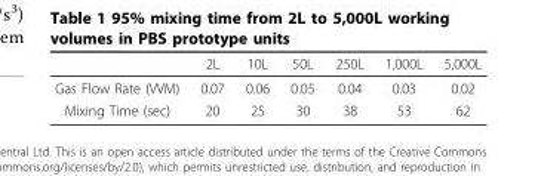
<table><thead><tr><td></td><td>2L</td><td>10L</td><td>50L</td><td>250L</td><td>1,000L</td><td>5,000L</td></tr></thead><tbody><tr><td>Gas Flow Rate (VVM)</td><td>0.07</td><td>0.06</td><td>0.05</td><td>0.04</td><td>0.03</td><td>0.02</td></tr><tr><td>Mixing Time (sec)</td><td>20</td><td>25</td><td>30</td><td>38</td><td>53</td><td>62</td></tr></tbody></table>